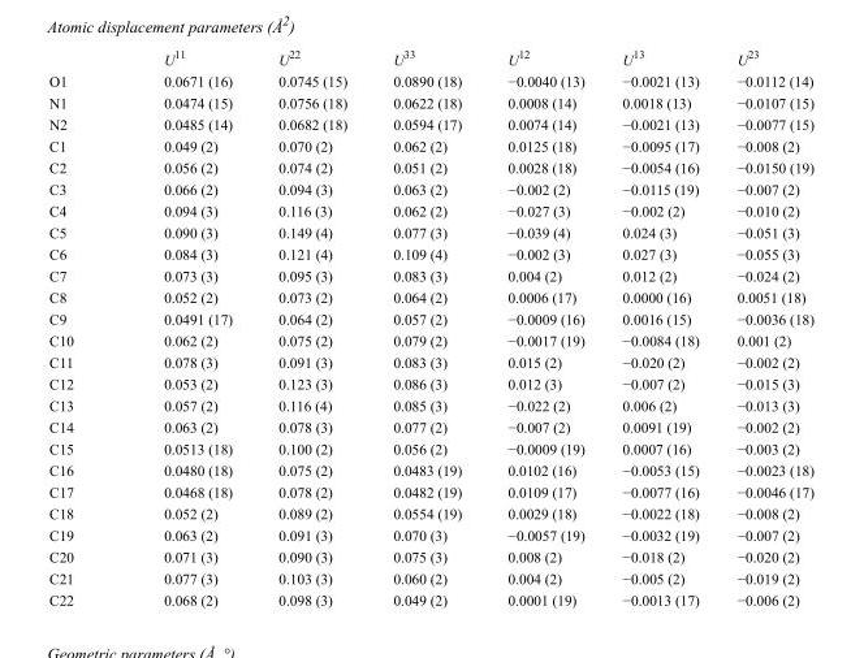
<table><thead><tr><td></td><td>U<sup>11</sup></td><td>U<sup>22</sup></td><td>U<sup>33</sup></td><td>U<sup>12</sup></td><td>U<sup>13</sup></td><td>U<sup>23</sup></td></tr></thead><tbody><tr><td>O1</td><td>0.0671 (16)</td><td>0.0745 (15)</td><td>0.0890 (18)</td><td>−0.0040 (13)</td><td>−0.0021 (13)</td><td>−0.0112 (14)</td></tr><tr><td>N1</td><td>0.0474 (15)</td><td>0.0756 (18)</td><td>0.0622 (18)</td><td>0.0008 (14)</td><td>0.0018 (13)</td><td>−0.0107 (15)</td></tr><tr><td>N2</td><td>0.0485 (14)</td><td>0.0682 (18)</td><td>0.0594 (17)</td><td>0.0074 (14)</td><td>−0.0021 (13)</td><td>−0.0077 (15)</td></tr><tr><td>C1</td><td>0.049 (2)</td><td>0.070 (2)</td><td>0.062 (2)</td><td>0.0125 (18)</td><td>−0.0095 (17)</td><td>−0.008 (2)</td></tr><tr><td>C2</td><td>0.056 (2)</td><td>0.074 (2)</td><td>0.051 (2)</td><td>0.0028 (18)</td><td>−0.0054 (16)</td><td>−0.0150 (19)</td></tr><tr><td>C3</td><td>0.066 (2)</td><td>0.094 (3)</td><td>0.063 (2)</td><td>−0.002 (2)</td><td>−0.0115 (19)</td><td>−0.007 (2)</td></tr><tr><td>C4</td><td>0.094 (3)</td><td>0.116 (3)</td><td>0.062 (2)</td><td>−0.027 (3)</td><td>−0.002 (2)</td><td>−0.010 (2)</td></tr><tr><td>C5</td><td>0.090 (3)</td><td>0.149 (4)</td><td>0.077 (3)</td><td>−0.039 (4)</td><td>0.024 (3)</td><td>−0.051 (3)</td></tr><tr><td>C6</td><td>0.084 (3)</td><td>0.121 (4)</td><td>0.109 (4)</td><td>−0.002 (3)</td><td>0.027 (3)</td><td>−0.055 (3)</td></tr><tr><td>C7</td><td>0.073 (3)</td><td>0.095 (3)</td><td>0.083 (3)</td><td>0.004 (2)</td><td>0.012 (2)</td><td>−0.024 (2)</td></tr><tr><td>C8</td><td>0.052 (2)</td><td>0.073 (2)</td><td>0.064 (2)</td><td>0.0006 (17)</td><td>0.0000 (16)</td><td>0.0051 (18)</td></tr><tr><td>C9</td><td>0.0491 (17)</td><td>0.064 (2)</td><td>0.057 (2)</td><td>−0.0009 (16)</td><td>0.0016 (15)</td><td>−0.0036 (18)</td></tr><tr><td>C10</td><td>0.062 (2)</td><td>0.075 (2)</td><td>0.079 (2)</td><td>−0.0017 (19)</td><td>−0.0084 (18)</td><td>0.001 (2)</td></tr><tr><td>C11</td><td>0.078 (3)</td><td>0.091 (3)</td><td>0.083 (3)</td><td>0.015 (2)</td><td>−0.020 (2)</td><td>−0.002 (2)</td></tr><tr><td>C12</td><td>0.053 (2)</td><td>0.123 (3)</td><td>0.086 (3)</td><td>0.012 (3)</td><td>−0.007 (2)</td><td>−0.015 (3)</td></tr><tr><td>C13</td><td>0.057 (2)</td><td>0.116 (4)</td><td>0.085 (3)</td><td>−0.022 (2)</td><td>0.006 (2)</td><td>−0.013 (3)</td></tr><tr><td>C14</td><td>0.063 (2)</td><td>0.078 (3)</td><td>0.077 (2)</td><td>−0.007 (2)</td><td>0.0091 (19)</td><td>−0.002 (2)</td></tr><tr><td>C15</td><td>0.0513 (18)</td><td>0.100 (2)</td><td>0.056 (2)</td><td>−0.0009 (19)</td><td>0.0007 (16)</td><td>−0.003 (2)</td></tr><tr><td>C16</td><td>0.0480 (18)</td><td>0.075 (2)</td><td>0.0483 (19)</td><td>0.0102 (16)</td><td>−0.0053 (15)</td><td>−0.0023 (18)</td></tr><tr><td>C17</td><td>0.0468 (18)</td><td>0.078 (2)</td><td>0.0482 (19)</td><td>0.0109 (17)</td><td>−0.0077 (16)</td><td>−0.0046 (17)</td></tr><tr><td>C18</td><td>0.052 (2)</td><td>0.089 (2)</td><td>0.0554 (19)</td><td>0.0029 (18)</td><td>−0.0022 (18)</td><td>−0.008 (2)</td></tr><tr><td>C19</td><td>0.063 (2)</td><td>0.091 (3)</td><td>0.070 (3)</td><td>−0.0057 (19)</td><td>−0.0032 (19)</td><td>−0.007 (2)</td></tr><tr><td>C20</td><td>0.071 (3)</td><td>0.090 (3)</td><td>0.075 (3)</td><td>0.008 (2)</td><td>−0.018 (2)</td><td>−0.020 (2)</td></tr><tr><td>C21</td><td>0.077 (3)</td><td>0.103 (3)</td><td>0.060 (2)</td><td>0.004 (2)</td><td>−0.005 (2)</td><td>−0.019 (2)</td></tr><tr><td>C22</td><td>0.068 (2)</td><td>0.098 (3)</td><td>0.049 (2)</td><td>0.0001 (19)</td><td>−0.0013 (17)</td><td>−0.006 (2)</td></tr></tbody></table>